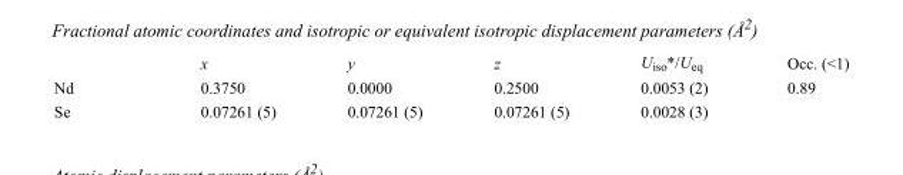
<table><thead><tr><td></td><td>x</td><td>y</td><td>z</td><td>U<sub>iso</sub>*/U<sub>eq</sub></td><td>Occ. (&lt;1)</td></tr></thead><tbody><tr><td>Nd</td><td>0.3750</td><td>0.0000</td><td>0.2500</td><td>0.0053 (2)</td><td>0.89</td></tr><tr><td>Se</td><td>0.07261 (5)</td><td>0.07261 (5)</td><td>0.07261 (5)</td><td>0.0028 (3)</td><td></td></tr></tbody></table>